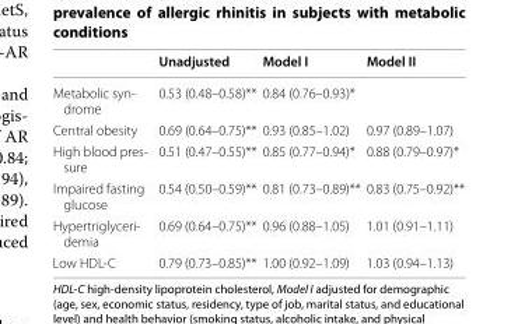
<table><thead><tr><td></td><td>Unadjusted</td><td>Model I</td><td>Model II</td></tr></thead><tbody><tr><td>Metabolic syn- drome</td><td>0.53 (0.48–0.58)**</td><td>0.84 (0.76–0.93)*</td><td></td></tr><tr><td>Central obesity</td><td>0.69 (0.64–0.75)**</td><td>0.93 (0.85–1.02)</td><td>0.97 (0.89–1.07)</td></tr><tr><td>High blood pres- sure</td><td>0.51 (0.47–0.55)**</td><td>0.85 (0.77–0.94)*</td><td>0.88 (0.79–0.97)*</td></tr><tr><td>Impaired fasting glucose</td><td>0.54 (0.50–0.59)**</td><td>0.81 (0.73–0.89)**</td><td>0.83 (0.75–0.92)**</td></tr><tr><td>Hypertriglyceri- demia</td><td>0.69 (0.64–0.75)**</td><td>0.96 (0.88–1.05)</td><td>1.01 (0.91–1.11)</td></tr><tr><td>Low HDL-C</td><td>0.79 (0.73–0.85)**</td><td>1.00 (0.92–1.09)</td><td>1.03 (0.94–1.13)</td></tr></tbody></table>